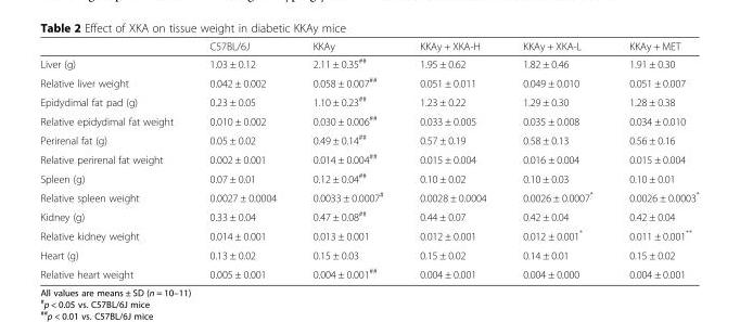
<table><thead><tr><td></td><td>C57BL/6J</td><td>KKAy</td><td>KKAy + XKA-H</td><td>KKAy + XKA-L</td><td>KKAy + MET</td></tr></thead><tbody><tr><td>Liver (g)</td><td>1.03 ± 0.12</td><td>2.11 ± 0.35<sup>##</sup></td><td>1.95 ± 0.62</td><td>1.82 ± 0.46</td><td>1.91 ± 0.30</td></tr><tr><td>Relative liver weight</td><td>0.042 ± 0.002</td><td>0.058 ± 0.007<sup>##</sup></td><td>0.051 ± 0.011</td><td>0.049 ± 0.010</td><td>0.051 ± 0.007</td></tr><tr><td>Epidydimal fat pad (g)</td><td>0.23 ± 0.05</td><td>1.10 ± 0.23<sup>##</sup></td><td>1.23 ± 0.22</td><td>1.29 ± 0.30</td><td>1.28 ± 0.38</td></tr><tr><td>Relative epidydimal fat weight</td><td>0.010 ± 0.002</td><td>0.030 ± 0.006<sup>##</sup></td><td>0.033 ± 0.005</td><td>0.035 ± 0.008</td><td>0.034 ± 0.010</td></tr><tr><td>Perirenal fat (g)</td><td>0.05 ± 0.02</td><td>0.49 ± 0.14<sup>##</sup></td><td>0.57 ± 0.19</td><td>0.58 ± 0.13</td><td>0.56 ± 0.16</td></tr><tr><td>Relative perirenal fat weight</td><td>0.002 ± 0.001</td><td>0.014 ± 0.004<sup>##</sup></td><td>0.015 ± 0.004</td><td>0.016 ± 0.004</td><td>0.015 ± 0.004</td></tr><tr><td>Spleen (g)</td><td>0.07 ± 0.01</td><td>0.12 ± 0.04<sup>##</sup></td><td>0.10 ± 0.02</td><td>0.10 ± 0.03</td><td>0.10 ± 0.01</td></tr><tr><td>Relative spleen weight</td><td>0.0027 ± 0.0004</td><td>0.0033 ± 0.0007<sup>#</sup></td><td>0.0028 ± 0.0004</td><td>0.0026 ± 0.0007*</td><td>0.0026 ± 0.0003*</td></tr><tr><td>Kidney (g)</td><td>0.33 ± 0.04</td><td>0.47 ± 0.08<sup>##</sup></td><td>0.44 ± 0.07</td><td>0.42 ± 0.04</td><td>0.42 ± 0.04</td></tr><tr><td>Relative kidney weight</td><td>0.014 ± 0.001</td><td>0.013 ± 0.001</td><td>0.012 ± 0.001</td><td>0.012 ± 0.001*</td><td>0.011 ± 0.001**</td></tr><tr><td>Heart (g)</td><td>0.13 ± 0.02</td><td>0.15 ± 0.03</td><td>0.15 ± 0.02</td><td>0.14 ± 0.01</td><td>0.15 ± 0.02</td></tr><tr><td>Relative heart weight</td><td>0.005 ± 0.001</td><td>0.004 ± 0.001<sup>##</sup></td><td>0.004 ± 0.001</td><td>0.004 ± 0.000</td><td>0.004 ± 0.001</td></tr></tbody></table>